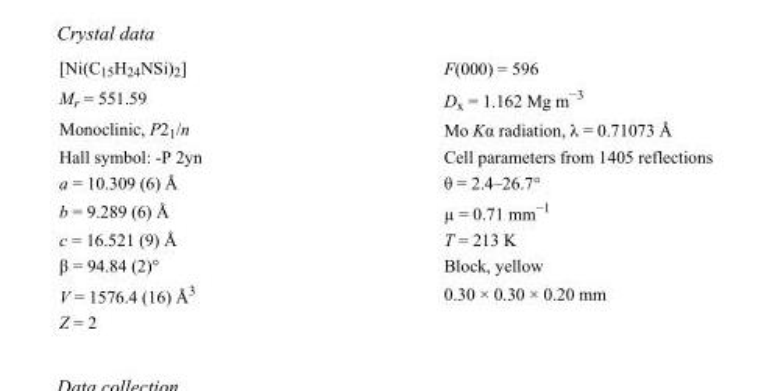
<table><tbody><tr><td>[Ni(C<sub>15</sub>H<sub>24</sub>NSi)<sub>2</sub>]</td><td>F(000) = 596</td></tr><tr><td>M<sub>r</sub> = 551.59</td><td>D<sub>x</sub> = 1.162 Mg m<sup>−3</sup></td></tr><tr><td>Monoclinic, P2<sub>1</sub>/n</td><td>Mo Kα radiation, λ = 0.71073 Å</td></tr><tr><td>Hall symbol: -P 2yn</td><td>Cell parameters from 1405 reflections</td></tr><tr><td>a = 10.309 (6) Å</td><td>θ = 2.4–26.7°</td></tr><tr><td>b = 9.289 (6) Å</td><td>µ = 0.71 mm<sup>−1</sup></td></tr><tr><td>c = 16.521 (9) Å</td><td>T = 213 K</td></tr><tr><td>β = 94.84 (2)°</td><td>Block, yellow</td></tr><tr><td>V = 1576.4 (16) Å<sup>3</sup></td><td>0.30 × 0.30 × 0.20 mm</td></tr><tr><td>Z = 2</td><td></td></tr></tbody></table>